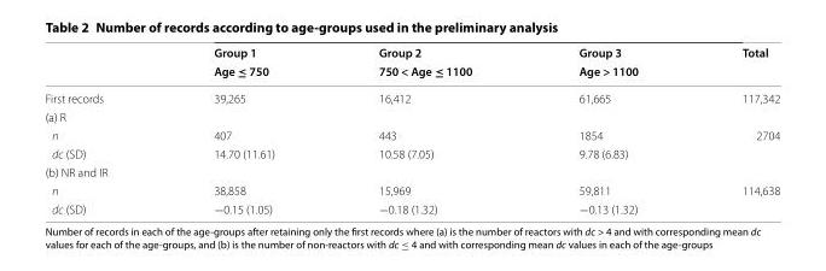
<table><thead><tr><td rowspan="2"></td><td rowspan="2">Group 1 Age ≤ 750</td><td rowspan="2">Group 2 750 &lt; Age ≤ 1100</td><td rowspan="2">Group 3 Age &gt; 1100</td><td rowspan="2">Total</td></tr><tr></tr></thead><tbody><tr><td>First records</td><td>39,265</td><td>16,412</td><td>61,665</td><td>117,342</td></tr><tr><td colspan="5">(a) R</td></tr><tr><td>n</td><td>407</td><td>443</td><td>1854</td><td>2704</td></tr><tr><td>dc (SD)</td><td>14.70 (11.61)</td><td>10.58 (7.05)</td><td>9.78 (6.83)</td><td></td></tr><tr><td colspan="5">(b) NR and IR</td></tr><tr><td>n</td><td>38,858</td><td>15,969</td><td>59,811</td><td>114,638</td></tr><tr><td>dc (SD)</td><td>−0.15 (1.05)</td><td>−0.18 (1.32)</td><td>−0.13 (1.32)</td><td></td></tr></tbody></table>